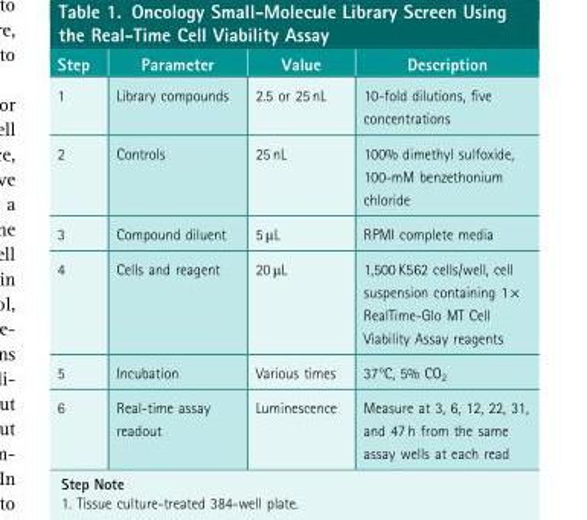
<table><thead><tr><td>Step</td><td>Parameter</td><td>Value</td><td>Description</td></tr></thead><tbody><tr><td>1</td><td>Library compounds</td><td>2.5 or 25 nL</td><td>10-fold dilutions, five concentrations</td></tr><tr><td>2</td><td>Controls</td><td>25 nL</td><td>100% dimethyl sulfoxide, 100-mM benzethonium chloride</td></tr><tr><td>3</td><td>Compound diluent</td><td>5 μL</td><td>RPMI complete media</td></tr><tr><td>4</td><td>Cells and reagent</td><td>20 μL</td><td>1,500 K562 cells/well, cell suspension containing 1 × RealTime-Glo MT Cell Viability Assay reagents</td></tr><tr><td>5</td><td>Incubation</td><td>Various times</td><td>37°C, 5% CO<sub>2</sub></td></tr><tr><td>6</td><td>Real-time assay readout</td><td>Luminescence</td><td>Measure at 3, 6, 12, 22, 31, and 47 h from the same assay wells at each read</td></tr></tbody></table>